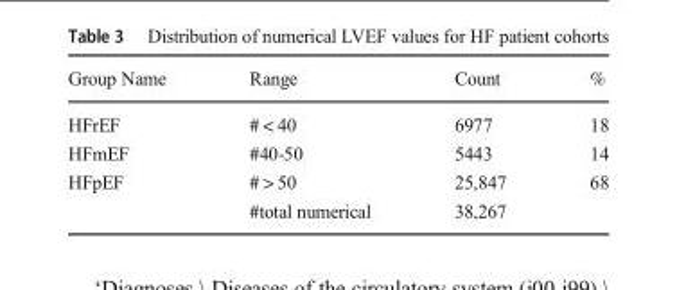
<table><thead><tr><td>Group Name</td><td>Range</td><td>Count</td><td>%</td></tr></thead><tbody><tr><td>HFrEF</td><td># &lt; 40</td><td>6977</td><td>18</td></tr><tr><td>HFmEF</td><td>#40-50</td><td>5443</td><td>14</td></tr><tr><td rowspan="2">HFpEF</td><td># &gt; 50</td><td>25,847</td><td>68</td></tr><tr><td>#total numerical</td><td>38,267</td><td></td></tr></tbody></table>